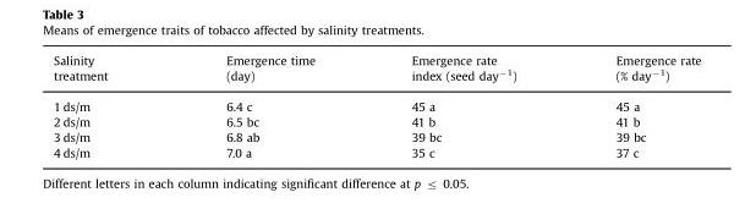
<table><thead><tr><td>Salinity treatment</td><td>Emergence time (day)</td><td>Emergence rate index (seed day<sup>−1</sup>)</td><td>Emergence rate (% day<sup>−1</sup>)</td></tr></thead><tbody><tr><td>1 ds/m</td><td>6.4 c</td><td>45 a</td><td>45 a</td></tr><tr><td>2 ds/m</td><td>6.5 bc</td><td>41 b</td><td>41 b</td></tr><tr><td>3 ds/m</td><td>6.8 ab</td><td>39 bc</td><td>39 bc</td></tr><tr><td>4 ds/m</td><td>7.0 a</td><td>35 c</td><td>37 c</td></tr></tbody></table>